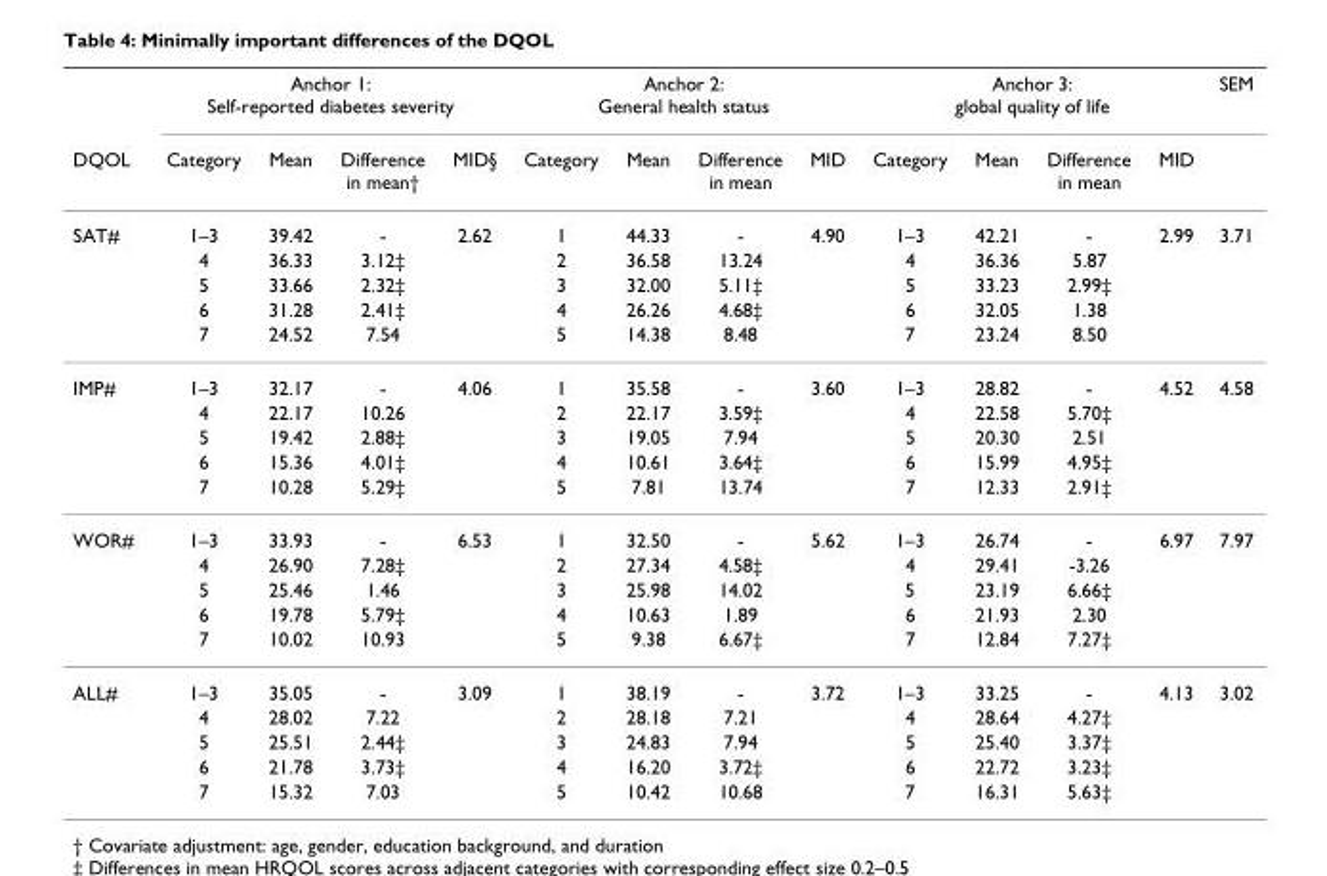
<table><thead><tr><td rowspan="2">DQOL</td><td colspan="4">Anchor 1: Self-reported diabetes severity</td><td colspan="4">Anchor 2: General health status</td><td colspan="4">Anchor 3: global quality of life</td><td rowspan="2">SEM</td></tr><tr><td>Category</td><td>Mean</td><td>Difference in mean†</td><td>MID§</td><td>Category</td><td>Mean</td><td>Difference in mean</td><td>MID</td><td>Category</td><td>Mean</td><td>Difference in mean</td><td>MID</td></tr></thead><tbody><tr><td rowspan="5">SAT#</td><td>1–3</td><td>39.42</td><td>-</td><td>2.62</td><td>1</td><td>44.33</td><td>-</td><td>4.90</td><td>1–3</td><td>42.21</td><td>-</td><td>2.99</td><td>3.71</td></tr><tr><td>4</td><td>36.33</td><td>3.12‡</td><td></td><td>2</td><td>36.58</td><td>13.24</td><td></td><td>4</td><td>36.36</td><td>5.87</td><td></td><td></td></tr><tr><td>5</td><td>33.66</td><td>2.32‡</td><td></td><td>3</td><td>32.00</td><td>5.11‡</td><td></td><td>5</td><td>33.23</td><td>2.99‡</td><td></td><td></td></tr><tr><td>6</td><td>31.28</td><td>2.41‡</td><td></td><td>4</td><td>26.26</td><td>4.68‡</td><td></td><td>6</td><td>32.05</td><td>1.38</td><td></td><td></td></tr><tr><td>7</td><td>24.52</td><td>7.54</td><td></td><td>5</td><td>14.38</td><td>8.48</td><td></td><td>7</td><td>23.24</td><td>8.50</td><td></td><td></td></tr><tr><td rowspan="5">IMP#</td><td>1–3</td><td>32.17</td><td>-</td><td>4.06</td><td>1</td><td>35.58</td><td>-</td><td>3.60</td><td>1–3</td><td>28.82</td><td>-</td><td>4.52</td><td>4.58</td></tr><tr><td>4</td><td>22.17</td><td>10.26</td><td></td><td>2</td><td>22.17</td><td>3.59‡</td><td></td><td>4</td><td>22.58</td><td>5.70‡</td><td></td><td></td></tr><tr><td>5</td><td>19.42</td><td>2.88‡</td><td></td><td>3</td><td>19.05</td><td>7.94</td><td></td><td>5</td><td>20.30</td><td>2.51</td><td></td><td></td></tr><tr><td>6</td><td>15.36</td><td>4.01‡</td><td></td><td>4</td><td>10.61</td><td>3.64‡</td><td></td><td>6</td><td>15.99</td><td>4.95‡</td><td></td><td></td></tr><tr><td>7</td><td>10.28</td><td>5.29‡</td><td></td><td>5</td><td>7.81</td><td>13.74</td><td></td><td>7</td><td>12.33</td><td>2.91‡</td><td></td><td></td></tr><tr><td rowspan="5">WOR#</td><td>1–3</td><td>33.93</td><td>-</td><td>6.53</td><td>1</td><td>32.50</td><td>-</td><td>5.62</td><td>1–3</td><td>26.74</td><td>-</td><td>6.97</td><td>7.97</td></tr><tr><td>4</td><td>26.90</td><td>7.28‡</td><td></td><td>2</td><td>27.34</td><td>4.58‡</td><td></td><td>4</td><td>29.41</td><td>-3.26</td><td></td><td></td></tr><tr><td>5</td><td>25.46</td><td>1.46</td><td></td><td>3</td><td>25.98</td><td>14.02</td><td></td><td>5</td><td>23.19</td><td>6.66‡</td><td></td><td></td></tr><tr><td>6</td><td>19.78</td><td>5.79‡</td><td></td><td>4</td><td>10.63</td><td>1.89</td><td></td><td>6</td><td>21.93</td><td>2.30</td><td></td><td></td></tr><tr><td>7</td><td>10.02</td><td>10.93</td><td></td><td>5</td><td>9.38</td><td>6.67‡</td><td></td><td>7</td><td>12.84</td><td>7.27‡</td><td></td><td></td></tr><tr><td rowspan="5">ALL#</td><td>1–3</td><td>35.05</td><td>-</td><td>3.09</td><td>1</td><td>38.19</td><td>-</td><td>3.72</td><td>1–3</td><td>33.25</td><td>-</td><td>4.13</td><td>3.02</td></tr><tr><td>4</td><td>28.02</td><td>7.22</td><td></td><td>2</td><td>28.18</td><td>7.21</td><td></td><td>4</td><td>28.64</td><td>4.27‡</td><td></td><td></td></tr><tr><td>5</td><td>25.51</td><td>2.44‡</td><td></td><td>3</td><td>24.83</td><td>7.94</td><td></td><td>5</td><td>25.40</td><td>3.37‡</td><td></td><td></td></tr><tr><td>6</td><td>21.78</td><td>3.73‡</td><td></td><td>4</td><td>16.20</td><td>3.72‡</td><td></td><td>6</td><td>22.72</td><td>3.23‡</td><td></td><td></td></tr><tr><td>7</td><td>15.32</td><td>7.03</td><td></td><td>5</td><td>10.42</td><td>10.68</td><td></td><td>7</td><td>16.31</td><td>5.63‡</td><td></td><td></td></tr></tbody></table>